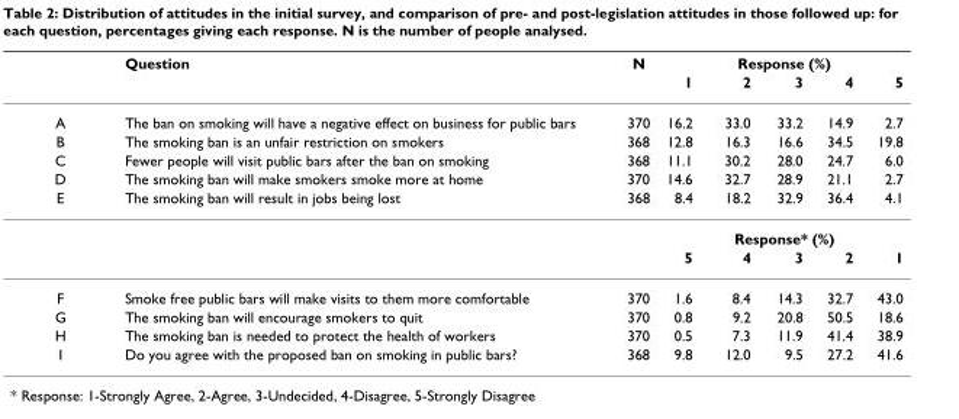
<table><thead><tr><td rowspan="2"></td><td rowspan="2">Question</td><td rowspan="2">N</td><td colspan="5">Response (%)</td></tr><tr><td>1</td><td>2</td><td>3</td><td>4</td><td>5</td></tr></thead><tbody><tr><td>A</td><td>The ban on smoking will have a negative effect on business for public bars</td><td>370</td><td>16.2</td><td>33.0</td><td>33.2</td><td>14.9</td><td>2.7</td></tr><tr><td>B</td><td>The smoking ban is an unfair restriction on smokers</td><td>368</td><td>12.8</td><td>16.3</td><td>16.6</td><td>34.5</td><td>19.8</td></tr><tr><td>C</td><td>Fewer people will visit public bars after the ban on smoking</td><td>368</td><td>11.1</td><td>30.2</td><td>28.0</td><td>24.7</td><td>6.0</td></tr><tr><td>D</td><td>The smoking ban will make smokers smoke more at home</td><td>370</td><td>14.6</td><td>32.7</td><td>28.9</td><td>21.1</td><td>2.7</td></tr><tr><td rowspan="3">E</td><td>The smoking ban will result in jobs being lost</td><td>368</td><td>8.4</td><td>18.2</td><td>32.9</td><td>36.4</td><td>4.1</td></tr><tr><td></td><td></td><td colspan="5">Response* (%)</td></tr><tr><td></td><td></td><td>5</td><td>4</td><td>3</td><td>2</td><td>1</td></tr><tr><td>F</td><td>Smoke free public bars will make visits to them more comfortable</td><td>370</td><td>1.6</td><td>8.4</td><td>14.3</td><td>32.7</td><td>43.0</td></tr><tr><td>G</td><td>The smoking ban will encourage smokers to quit</td><td>370</td><td>0.8</td><td>9.2</td><td>20.8</td><td>50.5</td><td>18.6</td></tr><tr><td>H</td><td>The smoking ban is needed to protect the health of workers</td><td>370</td><td>0.5</td><td>7.3</td><td>11.9</td><td>41.4</td><td>38.9</td></tr><tr><td>I</td><td>Do you agree with the proposed ban on smoking in public bars?</td><td>368</td><td>9.8</td><td>12.0</td><td>9.5</td><td>27.2</td><td>41.6</td></tr></tbody></table>